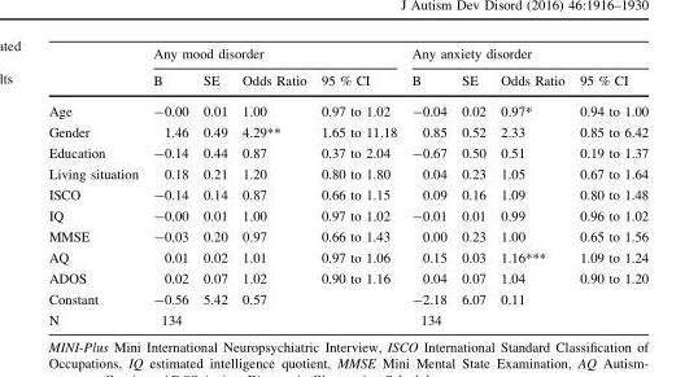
<table><thead><tr><td rowspan="2"></td><td colspan="4">Any mood disorder</td><td colspan="4">Any anxiety disorder</td></tr><tr><td>B</td><td>SE</td><td>Odds Ratio</td><td>95 % CI</td><td>B</td><td>SE</td><td>Odds Ratio</td><td>95 % CI</td></tr></thead><tbody><tr><td>Age</td><td>-0.00</td><td>0.01</td><td>1.00</td><td>0.97 to 1.02</td><td>-0.04</td><td>0.02</td><td>0.97*</td><td>0.94 to 1.00</td></tr><tr><td>Gender</td><td>1.46</td><td>0.49</td><td>4.29**</td><td>1.65 to 11.18</td><td>0.85</td><td>0.52</td><td>2.33</td><td>0.85 to 6.42</td></tr><tr><td>Education</td><td>-0.14</td><td>0.44</td><td>0.87</td><td>0.37 to 2.04</td><td>-0.67</td><td>0.50</td><td>0.51</td><td>0.19 to 1.37</td></tr><tr><td>Living situation</td><td>0.18</td><td>0.21</td><td>1.20</td><td>0.80 to 1.80</td><td>0.04</td><td>0.23</td><td>1.05</td><td>0.67 to 1.64</td></tr><tr><td>ISCO</td><td>-0.14</td><td>0.14</td><td>0.87</td><td>0.66 to 1.15</td><td>0.09</td><td>0.16</td><td>1.09</td><td>0.80 to 1.48</td></tr><tr><td>IQ</td><td>-0.00</td><td>0.01</td><td>1.00</td><td>0.97 to 1.02</td><td>-0.01</td><td>0.01</td><td>0.99</td><td>0.96 to 1.02</td></tr><tr><td>MMSE</td><td>-0.03</td><td>0.20</td><td>0.97</td><td>0.66 to 1.43</td><td>0.00</td><td>0.23</td><td>1.00</td><td>0.65 to 1.56</td></tr><tr><td>AQ</td><td>0.01</td><td>0.02</td><td>1.01</td><td>0.97 to 1.06</td><td>0.15</td><td>0.03</td><td>1.16***</td><td>1.09 to 1.24</td></tr><tr><td>ADOS</td><td>0.02</td><td>0.07</td><td>1.02</td><td>0.90 to 1.16</td><td>0.04</td><td>0.07</td><td>1.04</td><td>0.90 to 1.20</td></tr><tr><td>Constant</td><td>-0.56</td><td>5.42</td><td>0.57</td><td></td><td>-2.18</td><td>6.07</td><td>0.11</td><td></td></tr><tr><td>N</td><td>134</td><td></td><td></td><td></td><td>134</td><td></td><td></td><td></td></tr></tbody></table>